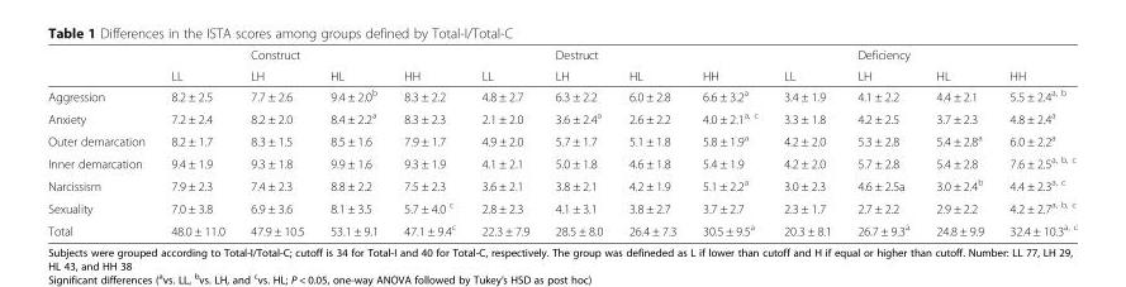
<table><thead><tr><td rowspan="2"></td><td rowspan="2">LL</td><td rowspan="2">Construct LH</td><td rowspan="2">HL</td><td rowspan="2">HH</td><td rowspan="2">LL</td><td rowspan="2">Destruct LH</td><td rowspan="2">HL</td><td rowspan="2">HH</td><td rowspan="2">LL</td><td rowspan="2">Deficiency LH</td><td rowspan="2">HL</td><td rowspan="2">HH</td></tr><tr></tr></thead><tbody><tr><td>Aggression</td><td>8.2 ± 2.5</td><td>7.7 ± 2.6</td><td>9.4 ± 2.0<sup>b</sup></td><td>8.3 ± 2.2</td><td>4.8 ± 2.7</td><td>6.3 ± 2.2</td><td>6.0 ± 2.8</td><td>6.6 ± 3.2<sup>a</sup></td><td>3.4 ± 1.9</td><td>4.1 ± 2.2</td><td>4.4 ± 2.1</td><td>5.5 ± 2.4<sup>a, b</sup></td></tr><tr><td>Anxiety</td><td>7.2 ± 2.4</td><td>8.2 ± 2.0</td><td>8.4 ± 2.2<sup>a</sup></td><td>8.3 ± 2.3</td><td>2.1 ± 2.0</td><td>3.6 ± 2.4<sup>a</sup></td><td>2.6 ± 2.2</td><td>4.0 ± 2.1<sup>a, c</sup></td><td>3.3 ± 1.8</td><td>4.2 ± 2.5</td><td>3.7 ± 2.3</td><td>4.8 ± 2.4<sup>a</sup></td></tr><tr><td>Outer demarcation</td><td>8.2 ± 1.7</td><td>8.3 ± 1.5</td><td>8.5 ± 1.6</td><td>7.9 ± 1.7</td><td>4.9 ± 2.0</td><td>5.7 ± 1.7</td><td>5.1 ± 1.8</td><td>5.8 ± 1.9<sup>a</sup></td><td>4.2 ± 2.0</td><td>5.3 ± 2.8</td><td>5.4 ± 2.8<sup>a</sup></td><td>6.0 ± 2.2<sup>a</sup></td></tr><tr><td>Inner demarcation</td><td>9.4 ± 1.9</td><td>9.3 ± 1.8</td><td>9.9 ± 1.6</td><td>9.3 ± 1.9</td><td>4.1 ± 2.1</td><td>5.0 ± 1.8</td><td>4.6 ± 1.8</td><td>5.4 ± 1.9</td><td>4.2 ± 2.0</td><td>5.7 ± 2.8</td><td>5.4 ± 2.8</td><td>7.6 ± 2.5<sup>a, b, c</sup></td></tr><tr><td>Narcissism</td><td>7.9 ± 2.3</td><td>7.4 ± 2.3</td><td>8.8 ± 2.2</td><td>7.5 ± 2.3</td><td>3.6 ± 2.1</td><td>3.8 ± 2.1</td><td>4.2 ± 1.9</td><td>5.1 ± 2.2<sup>a</sup></td><td>3.0 ± 2.3</td><td>4.6 ± 2.5a</td><td>3.0 ± 2.4<sup>b</sup></td><td>4.4 ± 2.3<sup>a, c</sup></td></tr><tr><td>Sexuality</td><td>7.0 ± 3.8</td><td>6.9 ± 3.6</td><td>8.1 ± 3.5</td><td>5.7 ± 4.0 <sup>c</sup></td><td>2.8 ± 2.3</td><td>4.1 ± 3.1</td><td>3.8 ± 2.7</td><td>3.7 ± 2.7</td><td>2.3 ± 1.7</td><td>2.7 ± 2.2</td><td>2.9 ± 2.2</td><td>4.2 ± 2.7<sup>a, b, c</sup></td></tr><tr><td>Total</td><td>48.0 ± 11.0</td><td>47.9 ± 10.5</td><td>53.1 ± 9.1</td><td>47.1 ± 9.4<sup>c</sup></td><td>22.3 ± 7.9</td><td>28.5 ± 8.0</td><td>26.4 ± 7.3</td><td>30.5 ± 9.5<sup>a</sup></td><td>20.3 ± 8.1</td><td>26.7 ± 9.3<sup>a</sup></td><td>24.8 ± 9.9</td><td>32.4 ± 10.3<sup>a, c</sup></td></tr></tbody></table>